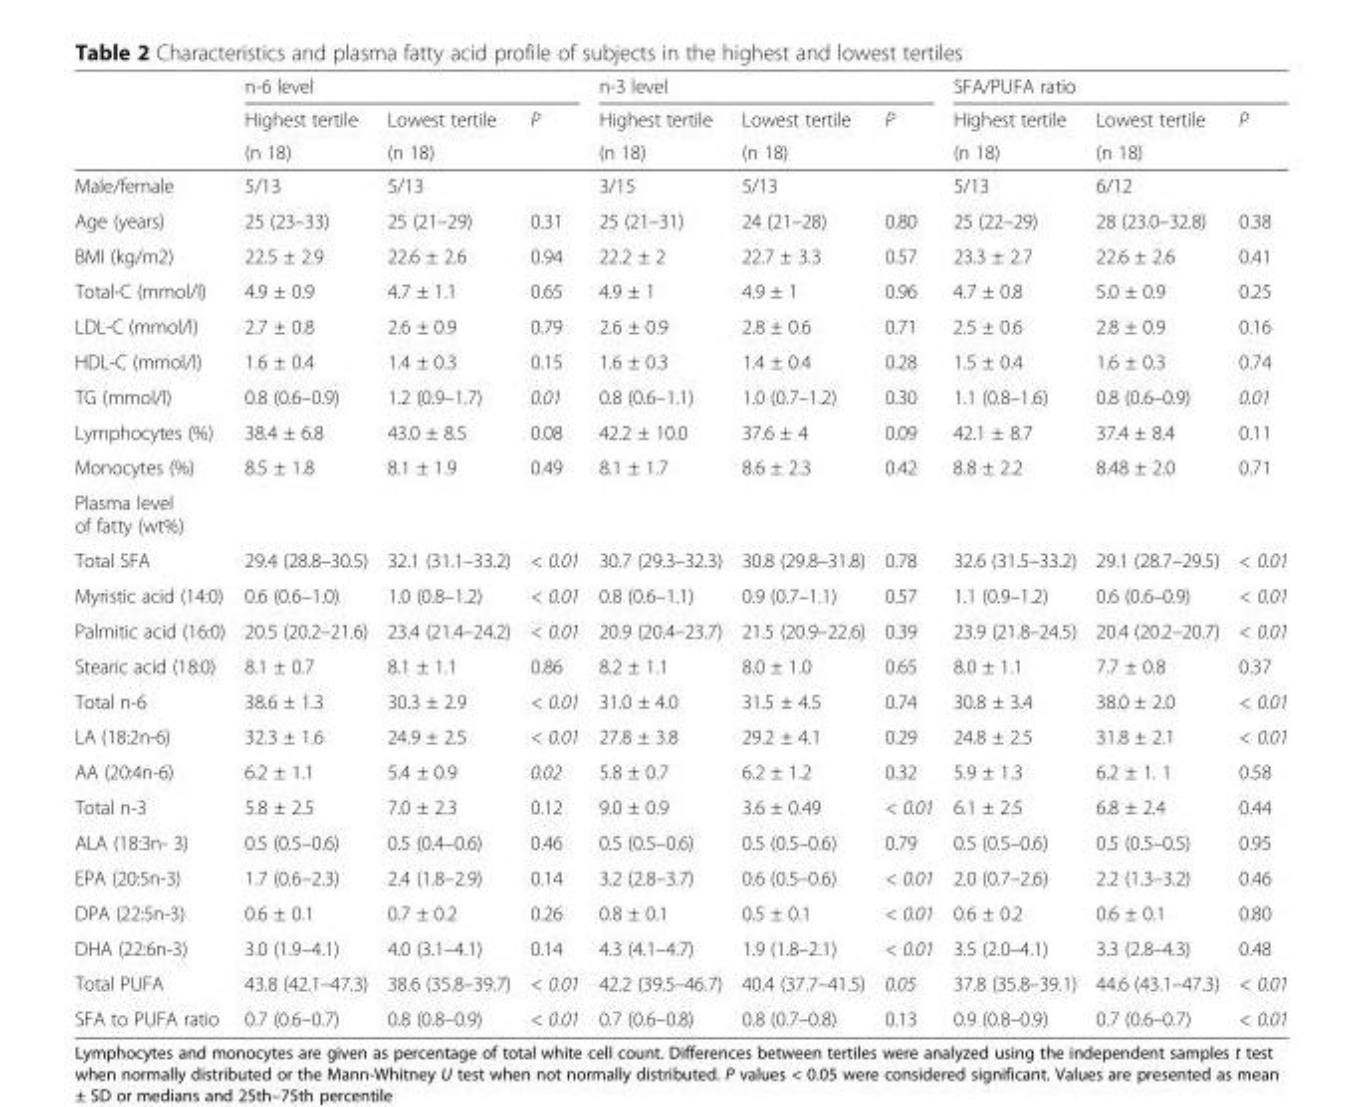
<table><thead><tr><td rowspan="3"></td><td colspan="3">n-6 level</td><td colspan="3">n-3 level</td><td colspan="3">SFA/PUFA ratio</td></tr><tr><td rowspan="2">Highest tertile (n 18)</td><td rowspan="2">Lowest tertile (n 18)</td><td rowspan="2">P</td><td rowspan="2">Highest tertile (n 18)</td><td rowspan="2">Lowest tertile (n 18)</td><td rowspan="2">P</td><td rowspan="2">Highest tertile (n 18)</td><td rowspan="2">Lowest tertile (n 18)</td><td rowspan="2">P</td></tr><tr></tr></thead><tbody><tr><td>Male/female</td><td>5/13</td><td>5/13</td><td></td><td>3/15</td><td>5/13</td><td></td><td>5/13</td><td>6/12</td><td></td></tr><tr><td>Age (years)</td><td>25 (23–33)</td><td>25 (21–29)</td><td>0.31</td><td>25 (21–31)</td><td>24 (21–28)</td><td>0.80</td><td>25 (22–29)</td><td>28 (23.0–32.8)</td><td>0.38</td></tr><tr><td>BMI (kg/m2)</td><td>22.5 ± 2.9</td><td>22.6 ± 2.6</td><td>0.94</td><td>22.2 ± 2</td><td>22.7 ± 3.3</td><td>0.57</td><td>23.3 ± 2.7</td><td>22.6 ± 2.6</td><td>0.41</td></tr><tr><td>Total-C (mmol/l)</td><td>4.9 ± 0.9</td><td>4.7 ± 1.1</td><td>0.65</td><td>4.9 ± 1</td><td>4.9 ± 1</td><td>0.96</td><td>4.7 ± 0.8</td><td>5.0 ± 0.9</td><td>0.25</td></tr><tr><td>LDL-C (mmol/l)</td><td>2.7 ± 0.8</td><td>2.6 ± 0.9</td><td>0.79</td><td>2.6 ± 0.9</td><td>2.8 ± 0.6</td><td>0.71</td><td>2.5 ± 0.6</td><td>2.8 ± 0.9</td><td>0.16</td></tr><tr><td>HDL-C (mmol/l)</td><td>1.6 ± 0.4</td><td>1.4 ± 0.3</td><td>0.15</td><td>1.6 ± 0.3</td><td>1.4 ± 0.4</td><td>0.28</td><td>1.5 ± 0.4</td><td>1.6 ± 0.3</td><td>0.74</td></tr><tr><td>TG (mmol/l)</td><td>0.8 (0.6–0.9)</td><td>1.2 (0.9–1.7)</td><td>0.01</td><td>0.8 (0.6–1.1)</td><td>1.0 (0.7–1.2)</td><td>0.30</td><td>1.1 (0.8–1.6)</td><td>0.8 (0.6–0.9)</td><td>0.01</td></tr><tr><td>Lymphocytes (%)</td><td>38.4 ± 6.8</td><td>43.0 ± 8.5</td><td>0.08</td><td>42.2 ± 10.0</td><td>37.6 ± 4</td><td>0.09</td><td>42.1 ± 8.7</td><td>37.4 ± 8.4</td><td>0.11</td></tr><tr><td>Monocytes (%)</td><td>8.5 ± 1.8</td><td>8.1 ± 1.9</td><td>0.49</td><td>8.1 ± 1.7</td><td>8.6 ± 2.3</td><td>0.42</td><td>8.8 ± 2.2</td><td>8.48 ± 2.0</td><td>0.71</td></tr><tr><td colspan="10">Plasma level of fatty (wt%)</td></tr><tr><td>Total SFA</td><td>29.4 (28.8–30.5)</td><td>32.1 (31.1–33.2)</td><td>&lt; 0.01</td><td>30.7 (29.3–32.3)</td><td>30.8 (29.8–31.8)</td><td>0.78</td><td>32.6 (31.5–33.2)</td><td>29.1 (28.7–29.5)</td><td>&lt; 0.01</td></tr><tr><td>Myristic acid (14:0)</td><td>0.6 (0.6–1.0)</td><td>1.0 (0.8–1.2)</td><td>&lt; 0.01</td><td>0.8 (0.6–1.1)</td><td>0.9 (0.7–1.1)</td><td>0.57</td><td>1.1 (0.9–1.2)</td><td>0.6 (0.6–0.9)</td><td>&lt; 0.01</td></tr><tr><td>Palmitic acid (16:0)</td><td>20.5 (20.2–21.6)</td><td>23.4 (21.4–24.2)</td><td>&lt; 0.01</td><td>20.9 (20.4–23.7)</td><td>21.5 (20.9–22.6)</td><td>0.39</td><td>23.9 (21.8–24.5)</td><td>20.4 (20.2–20.7)</td><td>&lt; 0.01</td></tr><tr><td>Stearic acid (18:0)</td><td>8.1 ± 0.7</td><td>8.1 ± 1.1</td><td>0.86</td><td>8.2 ± 1.1</td><td>8.0 ± 1.0</td><td>0.65</td><td>8.0 ± 1.1</td><td>7.7 ± 0.8</td><td>0.37</td></tr><tr><td>Total n-6</td><td>38.6 ± 1.3</td><td>30.3 ± 2.9</td><td>&lt; 0.01</td><td>31.0 ± 4.0</td><td>31.5 ± 4.5</td><td>0.74</td><td>30.8 ± 3.4</td><td>38.0 ± 2.0</td><td>&lt; 0.01</td></tr><tr><td>LA (18:2n-6)</td><td>32.3 ± 1.6</td><td>24.9 ± 2.5</td><td>&lt; 0.01</td><td>27.8 ± 3.8</td><td>29.2 ± 4.1</td><td>0.29</td><td>24.8 ± 2.5</td><td>31.8 ± 2.1</td><td>&lt; 0.01</td></tr><tr><td>AA (20:4n-6)</td><td>6.2 ± 1.1</td><td>5.4 ± 0.9</td><td>0.02</td><td>5.8 ± 0.7</td><td>6.2 ± 1.2</td><td>0.32</td><td>5.9 ± 1.3</td><td>6.2 ± 1. 1</td><td>0.58</td></tr><tr><td>Total n-3</td><td>5.8 ± 2.5</td><td>7.0 ± 2.3</td><td>0.12</td><td>9.0 ± 0.9</td><td>3.6 ± 0.49</td><td>&lt; 0.01</td><td>6.1 ± 2.5</td><td>6.8 ± 2.4</td><td>0.44</td></tr><tr><td>ALA (18:3n- 3)</td><td>0.5 (0.5–0.6)</td><td>0.5 (0.4–0.6)</td><td>0.46</td><td>0.5 (0.5–0.6)</td><td>0.5 (0.5–0.6)</td><td>0.79</td><td>0.5 (0.5–0.6)</td><td>0.5 (0.5–0.5)</td><td>0.95</td></tr><tr><td>EPA (20:5n-3)</td><td>1.7 (0.6–2.3)</td><td>2.4 (1.8–2.9)</td><td>0.14</td><td>3.2 (2.8–3.7)</td><td>0.6 (0.5–0.6)</td><td>&lt; 0.01</td><td>2.0 (0.7–2.6)</td><td>2.2 (1.3–3.2)</td><td>0.46</td></tr><tr><td>DPA (22:5n-3)</td><td>0.6 ± 0.1</td><td>0.7 ± 0.2</td><td>0.26</td><td>0.8 ± 0.1</td><td>0.5 ± 0.1</td><td>&lt; 0.01</td><td>0.6 ± 0.2</td><td>0.6 ± 0.1</td><td>0.80</td></tr><tr><td>DHA (22:6n-3)</td><td>3.0 (1.9–4.1)</td><td>4.0 (3.1–4.1)</td><td>0.14</td><td>4.3 (4.1–4.7)</td><td>1.9 (1.8–2.1)</td><td>&lt; 0.01</td><td>3.5 (2.0–4.1)</td><td>3.3 (2.8–4.3)</td><td>0.48</td></tr><tr><td>Total PUFA</td><td>43.8 (42.1–47.3)</td><td>38.6 (35.8–39.7)</td><td>&lt; 0.01</td><td>42.2 (39.5–46.7)</td><td>40.4 (37.7–41.5)</td><td>0.05</td><td>37.8 (35.8–39.1)</td><td>44.6 (43.1–47.3)</td><td>&lt; 0.01</td></tr><tr><td>SFA to PUFA ratio</td><td>0.7 (0.6–0.7)</td><td>0.8 (0.8–0.9)</td><td>&lt; 0.01</td><td>0.7 (0.6–0.8)</td><td>0.8 (0.7–0.8)</td><td>0.13</td><td>0.9 (0.8–0.9)</td><td>0.7 (0.6–0.7)</td><td>&lt; 0.01</td></tr></tbody></table>